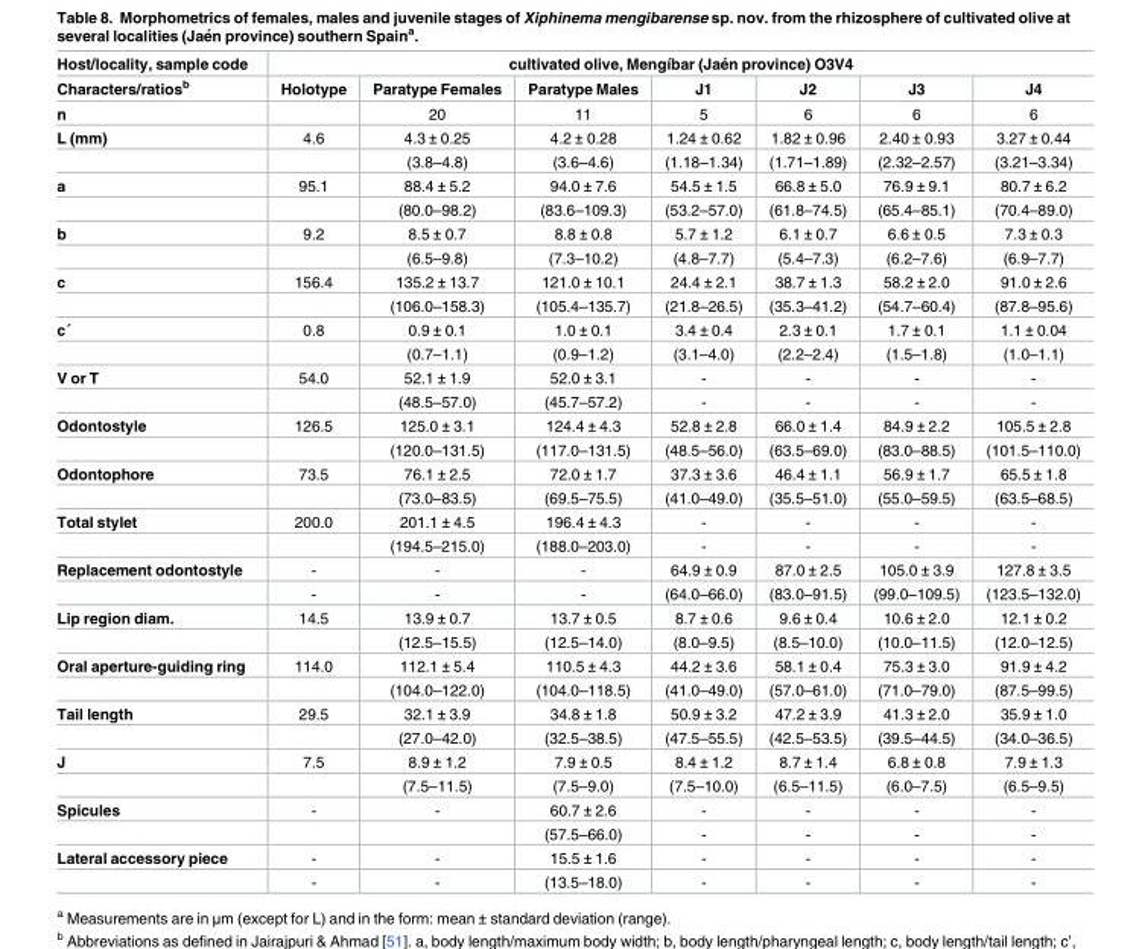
<table><thead><tr><td rowspan="2">Host/locality, sample code Characters/ratios<sup>b</sup></td><td colspan="7">cultivated olive, Mengı´bar (Jae´n province) O3V4</td></tr><tr><td>Holotype</td><td>Paratype Females</td><td>Paratype Males</td><td>J1</td><td>J2</td><td>J3</td><td>J4</td></tr></thead><tbody><tr><td>n</td><td></td><td>20</td><td>11</td><td>5</td><td>6</td><td>6</td><td>6</td></tr><tr><td rowspan="2">L (mm)</td><td>4.6</td><td>4.3 ± 0.25</td><td>4.2 ± 0.28</td><td>1.24 ± 0.62</td><td>1.82 ± 0.96</td><td>2.40 ± 0.93</td><td>3.27 ± 0.44</td></tr><tr><td></td><td>(3.8–4.8)</td><td>(3.6–4.6)</td><td>(1.18–1.34)</td><td>(1.71–1.89)</td><td>(2.32–2.57)</td><td>(3.21–3.34)</td></tr><tr><td rowspan="2">a</td><td>95.1</td><td>88.4 ± 5.2</td><td>94.0 ± 7.6</td><td>54.5 ± 1.5</td><td>66.8 ± 5.0</td><td>76.9 ± 9.1</td><td>80.7 ± 6.2</td></tr><tr><td></td><td>(80.0–98.2)</td><td>(83.6–109.3)</td><td>(53.2–57.0)</td><td>(61.8–74.5)</td><td>(65.4–85.1)</td><td>(70.4–89.0)</td></tr><tr><td rowspan="2">b</td><td>9.2</td><td>8.5 ± 0.7</td><td>8.8 ± 0.8</td><td>5.7 ± 1.2</td><td>6.1 ± 0.7</td><td>6.6 ± 0.5</td><td>7.3 ± 0.3</td></tr><tr><td></td><td>(6.5–9.8)</td><td>(7.3–10.2)</td><td>(4.8–7.7)</td><td>(5.4–7.3)</td><td>(6.2–7.6)</td><td>(6.9–7.7)</td></tr><tr><td rowspan="2">c</td><td>156.4</td><td>135.2 ± 13.7</td><td>121.0 ± 10.1</td><td>24.4 ± 2.1</td><td>38.7 ± 1.3</td><td>58.2 ± 2.0</td><td>91.0 ± 2.6</td></tr><tr><td></td><td>(106.0–158.3)</td><td>(105.4–135.7)</td><td>(21.8–26.5)</td><td>(35.3–41.2)</td><td>(54.7–60.4)</td><td>(87.8–95.6)</td></tr><tr><td rowspan="2">c´</td><td>0.8</td><td>0.9 ± 0.1</td><td>1.0 ± 0.1</td><td>3.4 ± 0.4</td><td>2.3 ± 0.1</td><td>1.7 ± 0.1</td><td>1.1 ± 0.04</td></tr><tr><td></td><td>(0.7–1.1)</td><td>(0.9–1.2)</td><td>(3.1–4.0)</td><td>(2.2–2.4)</td><td>(1.5–1.8)</td><td>(1.0–1.1)</td></tr><tr><td rowspan="2">V or T</td><td>54.0</td><td>52.1 ± 1.9</td><td>52.0 ± 3.1</td><td>-</td><td>-</td><td>-</td><td>-</td></tr><tr><td></td><td>(48.5–57.0)</td><td>(45.7–57.2)</td><td>-</td><td>-</td><td>-</td><td>-</td></tr><tr><td rowspan="2">Odontostyle</td><td>126.5</td><td>125.0 ± 3.1</td><td>124.4 ± 4.3</td><td>52.8 ± 2.8</td><td>66.0 ± 1.4</td><td>84.9 ± 2.2</td><td>105.5 ± 2.8</td></tr><tr><td></td><td>(120.0–131.5)</td><td>(117.0–131.5)</td><td>(48.5–56.0)</td><td>(63.5–69.0)</td><td>(83.0–88.5)</td><td>(101.5–110.0)</td></tr><tr><td rowspan="2">Odontophore</td><td>73.5</td><td>76.1 ± 2.5</td><td>72.0 ± 1.7</td><td>37.3 ± 3.6</td><td>46.4 ± 1.1</td><td>56.9 ± 1.7</td><td>65.5 ± 1.8</td></tr><tr><td></td><td>(73.0–83.5)</td><td>(69.5–75.5)</td><td>(41.0–49.0)</td><td>(35.5–51.0)</td><td>(55.0–59.5)</td><td>(63.5–68.5)</td></tr><tr><td rowspan="2">Total stylet</td><td>200.0</td><td>201.1 ± 4.5</td><td>196.4 ± 4.3</td><td>-</td><td>-</td><td>-</td><td>-</td></tr><tr><td></td><td>(194.5–215.0)</td><td>(188.0–203.0)</td><td>-</td><td>-</td><td>-</td><td>-</td></tr><tr><td rowspan="2">Replacement odontostyle</td><td>-</td><td>-</td><td>-</td><td>64.9 ± 0.9</td><td>87.0 ± 2.5</td><td>105.0 ± 3.9</td><td>127.8 ± 3.5</td></tr><tr><td>-</td><td>-</td><td>-</td><td>(64.0–66.0)</td><td>(83.0–91.5)</td><td>(99.0–109.5)</td><td>(123.5–132.0)</td></tr><tr><td rowspan="2">Lip region diam.</td><td>14.5</td><td>13.9 ± 0.7</td><td>13.7 ± 0.5</td><td>8.7 ± 0.6</td><td>9.6 ± 0.4</td><td>10.6 ± 2.0</td><td>12.1 ± 0.2</td></tr><tr><td></td><td>(12.5–15.5)</td><td>(12.5–14.0)</td><td>(8.0–9.5)</td><td>(8.5–10.0)</td><td>(10.0–11.5)</td><td>(12.0–12.5)</td></tr><tr><td rowspan="2">Oral aperture-guiding ring</td><td>114.0</td><td>112.1 ± 5.4</td><td>110.5 ± 4.3</td><td>44.2 ± 3.6</td><td>58.1 ± 0.4</td><td>75.3 ± 3.0</td><td>91.9 ± 4.2</td></tr><tr><td></td><td>(104.0–122.0)</td><td>(104.0–118.5)</td><td>(41.0–49.0)</td><td>(57.0–61.0)</td><td>(71.0–79.0)</td><td>(87.5–99.5)</td></tr><tr><td rowspan="2">Tail length</td><td>29.5</td><td>32.1 ± 3.9</td><td>34.8 ± 1.8</td><td>50.9 ± 3.2</td><td>47.2 ± 3.9</td><td>41.3 ± 2.0</td><td>35.9 ± 1.0</td></tr><tr><td></td><td>(27.0–42.0)</td><td>(32.5–38.5)</td><td>(47.5–55.5)</td><td>(42.5–53.5)</td><td>(39.5–44.5)</td><td>(34.0–36.5)</td></tr><tr><td rowspan="2">J</td><td>7.5</td><td>8.9 ± 1.2</td><td>7.9 ± 0.5</td><td>8.4 ± 1.2</td><td>8.7 ± 1.4</td><td>6.8 ± 0.8</td><td>7.9 ± 1.3</td></tr><tr><td></td><td>(7.5–11.5)</td><td>(7.5–9.0)</td><td>(7.5–10.0)</td><td>(6.5–11.5)</td><td>(6.0–7.5)</td><td>(6.5–9.5)</td></tr><tr><td rowspan="2">Spicules</td><td>-</td><td>-</td><td>60.7 ± 2.6</td><td>-</td><td>-</td><td>-</td><td>-</td></tr><tr><td></td><td></td><td>(57.5–66.0)</td><td>-</td><td>-</td><td>-</td><td>-</td></tr><tr><td rowspan="2">Lateral accessory piece</td><td>-</td><td>-</td><td>15.5 ± 1.6</td><td>-</td><td>-</td><td>-</td><td>-</td></tr><tr><td>-</td><td>-</td><td>(13.5–18.0)</td><td>-</td><td>-</td><td>-</td><td>-</td></tr></tbody></table>